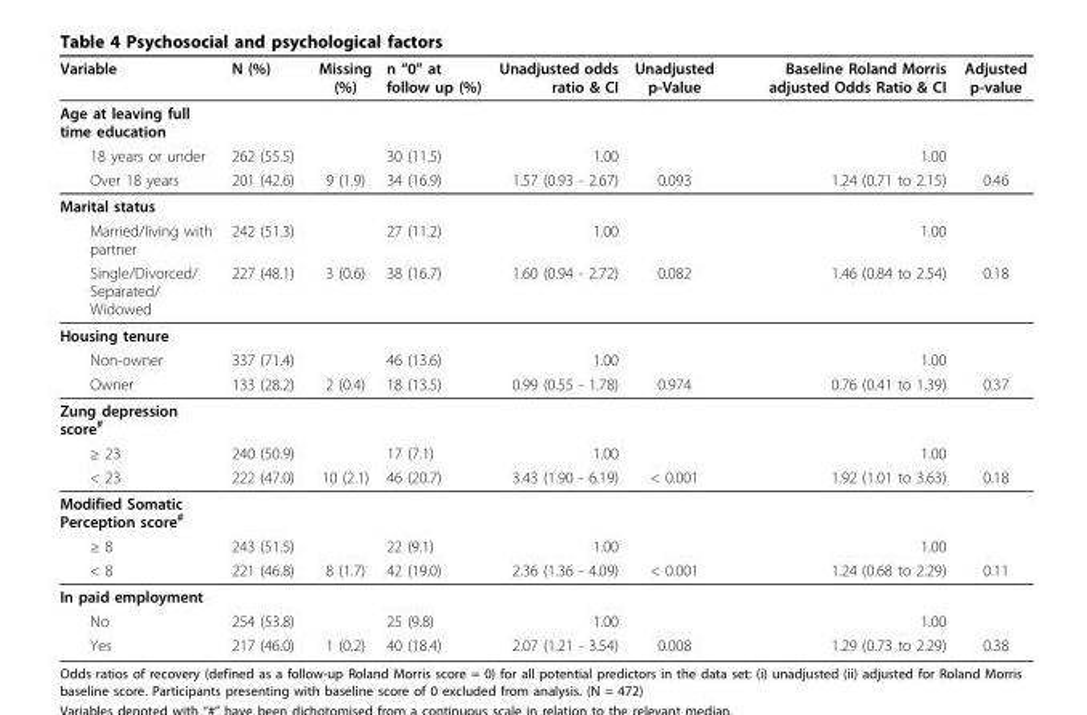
<table><thead><tr><td>Variable</td><td>N (%)</td><td>Missing (%)</td><td>n “0” at follow up (%)</td><td>Unadjusted odds ratio &amp; CI</td><td>Unadjusted p-Value</td><td>Baseline Roland Morris adjusted Odds Ratio &amp; CI</td><td>Adjusted p-value</td></tr></thead><tbody><tr><td colspan="8">Age at leaving full time education</td></tr><tr><td>18 years or under</td><td>262 (55.5)</td><td></td><td>30 (11.5)</td><td>1.00</td><td></td><td>1.00</td><td></td></tr><tr><td>Over 18 years</td><td>201 (42.6)</td><td>9 (1.9)</td><td>34 (16.9)</td><td>1.57 (0.93 - 2.67)</td><td>0.093</td><td>1.24 (0.71 to 2.15)</td><td>0.46</td></tr><tr><td colspan="8">Marital status</td></tr><tr><td>Married/living with partner</td><td>242 (51.3)</td><td></td><td>27 (11.2)</td><td>1.00</td><td></td><td>1.00</td><td></td></tr><tr><td>Single/Divorced/ Separated/ Widowed</td><td>227 (48.1)</td><td>3 (0.6)</td><td>38 (16.7)</td><td>1.60 (0.94 - 2.72)</td><td>0.082</td><td>1.46 (0.84 to 2.54)</td><td>0.18</td></tr><tr><td colspan="8">Housing tenure</td></tr><tr><td>Non-owner</td><td>337 (71.4)</td><td></td><td>46 (13.6)</td><td>1.00</td><td></td><td>1.00</td><td></td></tr><tr><td>Owner</td><td>133 (28.2)</td><td>2 (0.4)</td><td>18 (13.5)</td><td>0.99 (0.55 - 1.78)</td><td>0.974</td><td>0.76 (0.41 to 1.39)</td><td>0.37</td></tr><tr><td colspan="8">Zung depression score<sup>#</sup></td></tr><tr><td>≥ 23</td><td>240 (50.9)</td><td></td><td>17 (7.1)</td><td>1.00</td><td></td><td>1.00</td><td></td></tr><tr><td>&lt; 23</td><td>222 (47.0)</td><td>10 (2.1)</td><td>46 (20.7)</td><td>3.43 (1.90 - 6.19)</td><td>&lt; 0.001</td><td>1.92 (1.01 to 3.63)</td><td>0.18</td></tr><tr><td colspan="8">Modified Somatic Perception score<sup>#</sup></td></tr><tr><td>≥ 8</td><td>243 (51.5)</td><td></td><td>22 (9.1)</td><td>1.00</td><td></td><td>1.00</td><td></td></tr><tr><td>&lt; 8</td><td>221 (46.8)</td><td>8 (1.7)</td><td>42 (19.0)</td><td>2.36 (1.36 - 4.09)</td><td>&lt; 0.001</td><td>1.24 (0.68 to 2.29)</td><td>0.11</td></tr><tr><td colspan="8">In paid employment</td></tr><tr><td>No</td><td>254 (53.8)</td><td></td><td>25 (9.8)</td><td>1.00</td><td></td><td>1.00</td><td></td></tr><tr><td>Yes</td><td>217 (46.0)</td><td>1 (0.2)</td><td>40 (18.4)</td><td>2.07 (1.21 - 3.54)</td><td>0.008</td><td>1.29 (0.73 to 2.29)</td><td>0.38</td></tr></tbody></table>